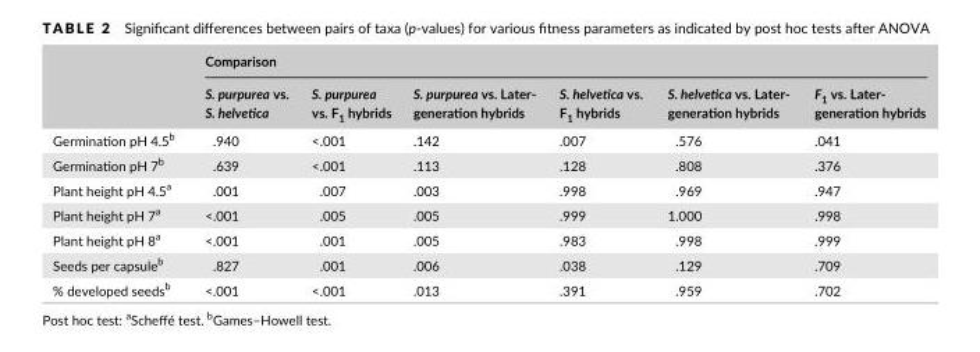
<table><thead><tr><td rowspan="2"></td><td colspan="6">Comparison</td></tr><tr><td>S. purpurea vs. S. helvetica</td><td>S. purpurea vs. F<sub>1</sub> hybrids</td><td>S. purpurea vs. Later- generation hybrids</td><td>S. helvetica vs. F<sub>1</sub> hybrids</td><td>S. helvetica vs. Later- generation hybrids</td><td>F<sub>1</sub> vs. Later- generation hybrids</td></tr></thead><tbody><tr><td>Germination pH 4.5<sup>b</sup></td><td>.940</td><td>&lt;.001</td><td>.142</td><td>.007</td><td>.576</td><td>.041</td></tr><tr><td>Germination pH 7<sup>b</sup></td><td>.639</td><td>&lt;.001</td><td>.113</td><td>.128</td><td>.808</td><td>.376</td></tr><tr><td>Plant height pH 4.5<sup>a</sup></td><td>.001</td><td>.007</td><td>.003</td><td>.998</td><td>.969</td><td>.947</td></tr><tr><td>Plant height pH 7<sup>a</sup></td><td>&lt;.001</td><td>.005</td><td>.005</td><td>.999</td><td>1.000</td><td>.998</td></tr><tr><td>Plant height pH 8<sup>a</sup></td><td>&lt;.001</td><td>.001</td><td>.005</td><td>.983</td><td>.998</td><td>.999</td></tr><tr><td>Seeds per capsule<sup>b</sup></td><td>.827</td><td>.001</td><td>.006</td><td>.038</td><td>.129</td><td>.709</td></tr><tr><td>% developed seeds<sup>b</sup></td><td>&lt;.001</td><td>&lt;.001</td><td>.013</td><td>.391</td><td>.959</td><td>.702</td></tr></tbody></table>